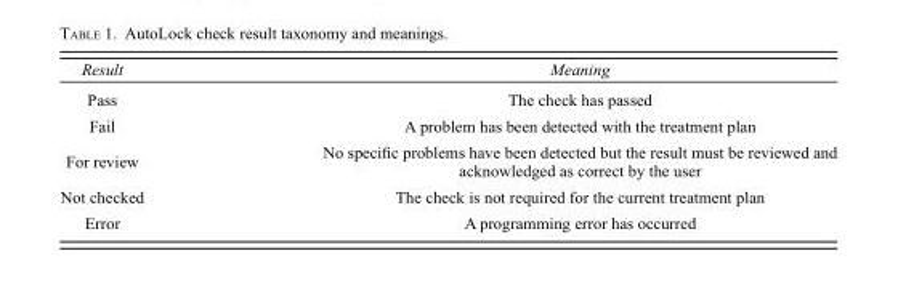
<table><thead><tr><td>Result</td><td>Meaning</td></tr></thead><tbody><tr><td>Pass</td><td>The check has passed</td></tr><tr><td>Fail</td><td>A problem has been detected with the treatment plan</td></tr><tr><td>For review</td><td>No specific problems have been detected but the result must be reviewed and acknowledged as correct by the user</td></tr><tr><td>Not checked</td><td>The check is not required for the current treatment plan</td></tr><tr><td>Error</td><td>A programming error has occurred</td></tr></tbody></table>